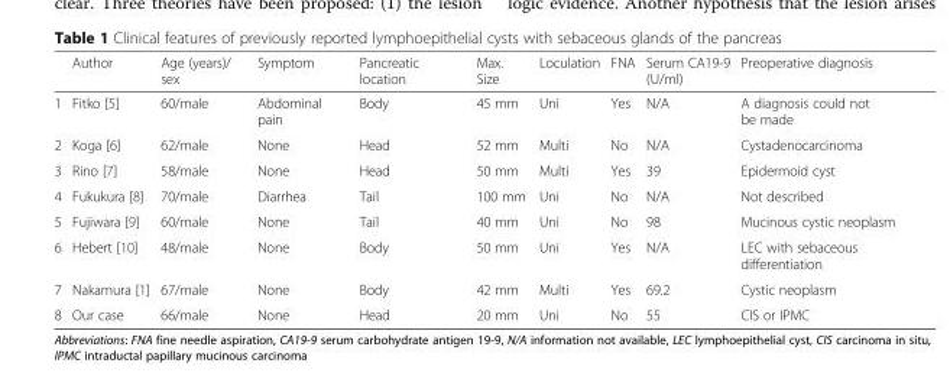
<table><thead><tr><td></td><td>Author</td><td>Age (years)/ sex</td><td>Symptom</td><td>Pancreatic location</td><td>Max. Size</td><td>Loculation</td><td>FNA</td><td>Serum CA19-9 (U/ml)</td><td>Preoperative diagnosis</td></tr></thead><tbody><tr><td>1</td><td>Fitko [5]</td><td>60/male</td><td>Abdominal pain</td><td>Body</td><td>45 mm</td><td>Uni</td><td>Yes</td><td>N/A</td><td>A diagnosis could not be made</td></tr><tr><td>2</td><td>Koga [6]</td><td>62/male</td><td>None</td><td>Head</td><td>52 mm</td><td>Multi</td><td>No</td><td>N/A</td><td>Cystadenocarcinoma</td></tr><tr><td>3</td><td>Rino [7]</td><td>58/male</td><td>None</td><td>Head</td><td>50 mm</td><td>Multi</td><td>Yes</td><td>39</td><td>Epidermoid cyst</td></tr><tr><td>4</td><td>Fukukura [8]</td><td>70/male</td><td>Diarrhea</td><td>Tail</td><td>100 mm</td><td>Uni</td><td>No</td><td>N/A</td><td>Not described</td></tr><tr><td>5</td><td>Fujiwara [9]</td><td>60/male</td><td>None</td><td>Tail</td><td>40 mm</td><td>Uni</td><td>No</td><td>98</td><td>Mucinous cystic neoplasm</td></tr><tr><td>6</td><td>Hebert [10]</td><td>48/male</td><td>None</td><td>Body</td><td>50 mm</td><td>Uni</td><td>Yes</td><td>N/A</td><td>LEC with sebaceous differentiation</td></tr><tr><td>7</td><td>Nakamura [1]</td><td>67/male</td><td>None</td><td>Body</td><td>42 mm</td><td>Multi</td><td>Yes</td><td>69.2</td><td>Cystic neoplasm</td></tr><tr><td>8</td><td>Our case</td><td>66/male</td><td>None</td><td>Head</td><td>20 mm</td><td>Uni</td><td>No</td><td>55</td><td>CIS or IPMC</td></tr></tbody></table>